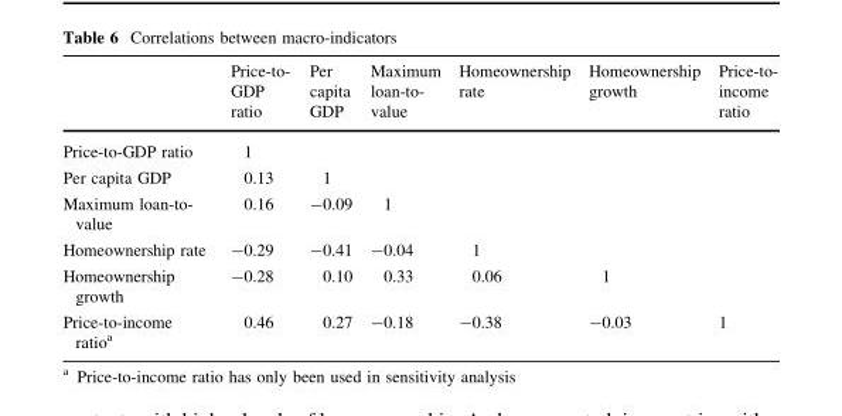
<table><thead><tr><td></td><td>Price-to- GDP ratio</td><td>Per capita GDP</td><td>Maximum loan-to- value</td><td>Homeownership rate</td><td>Homeownership growth</td><td>Price-to- income ratio</td></tr></thead><tbody><tr><td>Price-to-GDP ratio</td><td>1</td><td></td><td></td><td></td><td></td><td></td></tr><tr><td>Per capita GDP</td><td>0.13</td><td>1</td><td></td><td></td><td></td><td></td></tr><tr><td>Maximum loan-to- value</td><td>0.16</td><td>-0.09</td><td>1</td><td></td><td></td><td></td></tr><tr><td>Homeownership rate</td><td>-0.29</td><td>-0.41</td><td>-0.04</td><td>1</td><td></td><td></td></tr><tr><td>Homeownership growth</td><td>-0.28</td><td>0.10</td><td>0.33</td><td>0.06</td><td>1</td><td></td></tr><tr><td>Price-to-income ratio<sup>a</sup></td><td>0.46</td><td>0.27</td><td>-0.18</td><td>-0.38</td><td>-0.03</td><td>1</td></tr></tbody></table>